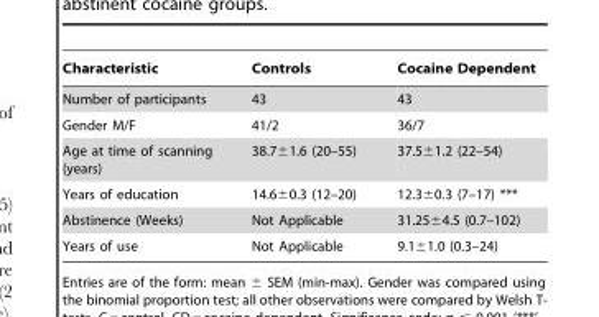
<table><thead><tr><td>Characteristic</td><td>Controls</td><td>Cocaine Dependent</td></tr></thead><tbody><tr><td>Number of participants</td><td>43</td><td>43</td></tr><tr><td>Gender M/F</td><td>41/2</td><td>36/7</td></tr><tr><td>Age at time of scanning (years)</td><td>38.7±1.6 (20–55)</td><td>37.5±1.2 (22–54)</td></tr><tr><td>Years of education</td><td>14.6±0.3 (12–20)</td><td>12.3±0.3 (7–17) ***</td></tr><tr><td>Abstinence (Weeks)</td><td>Not Applicable</td><td>31.25±4.5 (0.7–102)</td></tr><tr><td>Years of use</td><td>Not Applicable</td><td>9.1±1.0 (0.3–24)</td></tr></tbody></table>